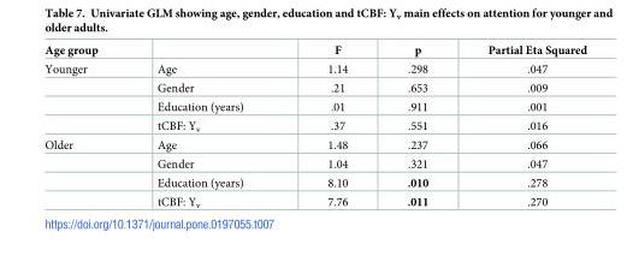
<table><thead><tr><td>Age group</td><td></td><td>F</td><td>p</td><td>Partial Eta Squared</td></tr></thead><tbody><tr><td rowspan="4">Younger</td><td>Age</td><td>1.14</td><td>.298</td><td>.047</td></tr><tr><td>Gender</td><td>.21</td><td>.653</td><td>.009</td></tr><tr><td>Education (years)</td><td>.01</td><td>.911</td><td>.001</td></tr><tr><td>tCBF: Y<sub>v</sub></td><td>.37</td><td>.551</td><td>.016</td></tr><tr><td rowspan="4">Older</td><td>Age</td><td>1.48</td><td>.237</td><td>.066</td></tr><tr><td>Gender</td><td>1.04</td><td>.321</td><td>.047</td></tr><tr><td>Education (years)</td><td>8.10</td><td>.010</td><td>.278</td></tr><tr><td>tCBF: Y<sub>v</sub></td><td>7.76</td><td>.011</td><td>.270</td></tr></tbody></table>